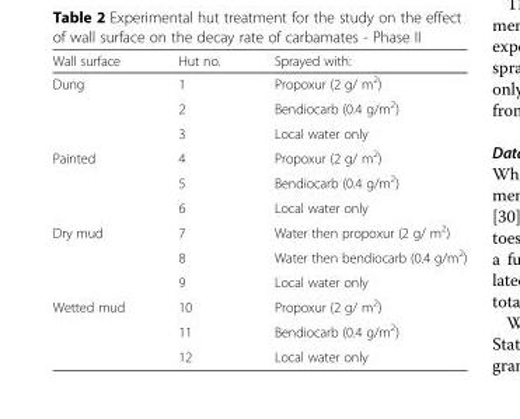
<table><thead><tr><td>Wall surface</td><td>Hut no.</td><td>Sprayed with:</td></tr></thead><tbody><tr><td rowspan="3">Dung</td><td>1</td><td>Propoxur (2 g/ m<sup>2</sup>)</td></tr><tr><td>2</td><td>Bendiocarb (0.4 g/m<sup>2</sup>)</td></tr><tr><td>3</td><td>Local water only</td></tr><tr><td rowspan="3">Painted</td><td>4</td><td>Propoxur (2 g/ m<sup>2</sup>)</td></tr><tr><td>5</td><td>Bendiocarb (0.4 g/m<sup>2</sup>)</td></tr><tr><td>6</td><td>Local water only</td></tr><tr><td rowspan="3">Dry mud</td><td>7</td><td>Water then propoxur (2 g/ m<sup>2</sup>)</td></tr><tr><td>8</td><td>Water then bendiocarb (0.4 g/m<sup>2</sup>)</td></tr><tr><td>9</td><td>Local water only</td></tr><tr><td rowspan="3">Wetted mud</td><td>10</td><td>Propoxur (2 g/ m<sup>2</sup>)</td></tr><tr><td>11</td><td>Bendiocarb (0.4 g/m<sup>2</sup>)</td></tr><tr><td>12</td><td>Local water only</td></tr></tbody></table>